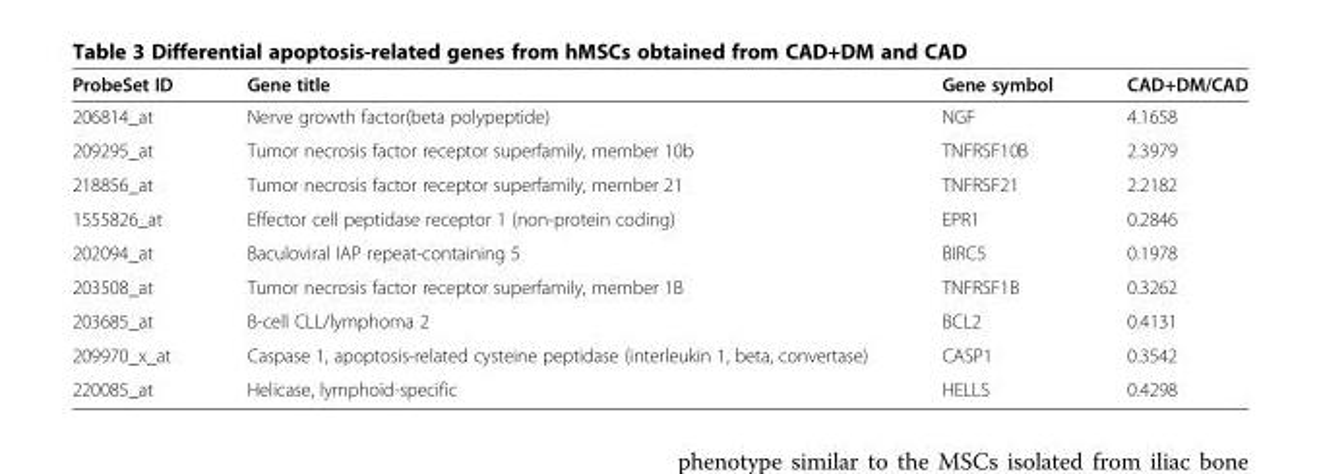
<table><thead><tr><td>ProbeSet ID</td><td>Gene title</td><td>Gene symbol</td><td>CAD+DM/CAD</td></tr></thead><tbody><tr><td>206814_at</td><td>Nerve growth factor(beta polypeptide)</td><td>NGF</td><td>4.1658</td></tr><tr><td>209295_at</td><td>Tumor necrosis factor receptor superfamily, member 10b</td><td>TNFRSF10B</td><td>2.3979</td></tr><tr><td>218856_at</td><td>Tumor necrosis factor receptor superfamily, member 21</td><td>TNFRSF21</td><td>2.2182</td></tr><tr><td>1555826_at</td><td>Effector cell peptidase receptor 1 (non-protein coding)</td><td>EPR1</td><td>0.2846</td></tr><tr><td>202094_at</td><td>Baculoviral IAP repeat-containing 5</td><td>BIRC5</td><td>0.1978</td></tr><tr><td>203508_at</td><td>Tumor necrosis factor receptor superfamily, member 1B</td><td>TNFRSF1B</td><td>0.3262</td></tr><tr><td>203685_at</td><td>B-cell CLL/lymphoma 2</td><td>BCL2</td><td>0.4131</td></tr><tr><td>209970_x_at</td><td>Caspase 1, apoptosis-related cysteine peptidase (interleukin 1, beta, convertase)</td><td>CASP1</td><td>0.3542</td></tr><tr><td>220085_at</td><td>Helicase, lymphoid-specific</td><td>HELLS</td><td>0.4298</td></tr></tbody></table>